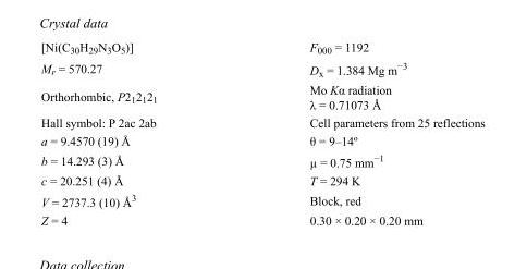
<table><tbody><tr><td>[Ni(C<sub>30</sub>H<sub>29</sub>N<sub>3</sub>O<sub>5</sub>)]</td><td>F000 = 1192</td></tr><tr><td>M<sub>r</sub> = 570.27</td><td>D<sub>x</sub> = 1.384 Mg m<sup>−3</sup></td></tr><tr><td>Orthorhombic, P2<sub>1</sub>2<sub>1</sub>2<sub>1</sub></td><td>Mo Kα radiation λ = 0.71073 Å</td></tr><tr><td>Hall symbol: P 2ac 2ab</td><td>Cell parameters from 25 reflections</td></tr><tr><td>a = 9.4570 (19) Å</td><td>θ = 9–14º</td></tr><tr><td>b = 14.293 (3) Å</td><td>µ = 0.75 mm<sup>−1</sup></td></tr><tr><td>c = 20.251 (4) Å</td><td>T = 294 K</td></tr><tr><td>V = 2737.3 (10) Å<sup>3</sup></td><td>Block, red</td></tr><tr><td>Z = 4</td><td>0.30 × 0.20 × 0.20 mm</td></tr></tbody></table>